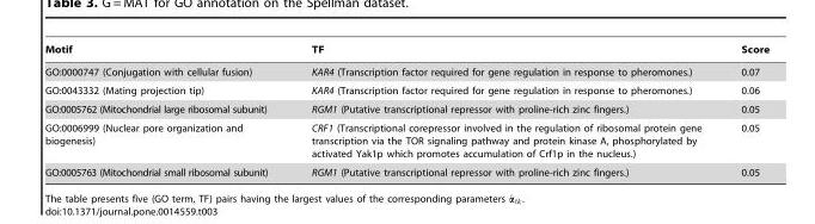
<table><thead><tr><td>Motif</td><td>TF</td><td>Score</td></tr></thead><tbody><tr><td>GO:0000747 (Conjugation with cellular fusion)</td><td>KAR4 (Transcription factor required for gene regulation in response to pheromones.)</td><td>0.07</td></tr><tr><td>GO:0043332 (Mating projection tip)</td><td>KAR4 (Transcription factor required for gene regulation in response to pheromones.)</td><td>0.06</td></tr><tr><td>GO:0005762 (Mitochondrial large ribosomal subunit)</td><td>RGM1 (Putative transcriptional repressor with proline-rich zinc fingers.)</td><td>0.05</td></tr><tr><td>GO:0006999 (Nuclear pore organization and biogenesis)</td><td>CRF1 (Transcriptional corepressor involved in the regulation of ribosomal protein gene transcription via the TOR signaling pathway and protein kinase A, phosphorylated by activated Yak1p which promotes accumulation of Crf1p in the nucleus.)</td><td>0.05</td></tr><tr><td>GO:0005763 (Mitochondrial small ribosomal subunit)</td><td>RGM1 (Putative transcriptional repressor with proline-rich zinc fingers.)</td><td>0.05</td></tr></tbody></table>